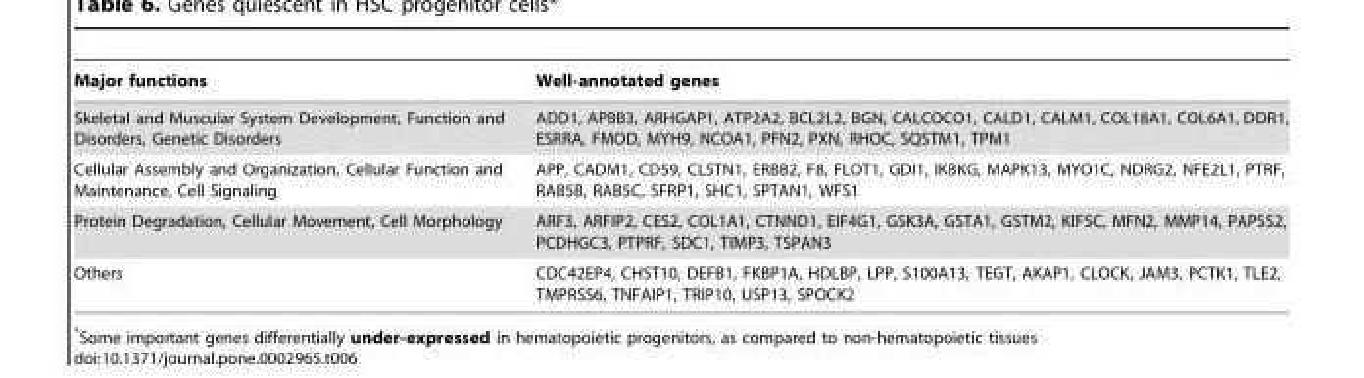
<table><thead><tr><td>Major functions</td><td>Well-annotated genes</td></tr></thead><tbody><tr><td>Skeletal and Muscular System Development, Function and Disorders, Genetic Disorders</td><td>ADD1, APBB3, ARHGAP1, ATP2A2, BCL2L2, BGN, CALCOCO1, CALD1, CALM1, COL18A1, COL6A1, DDR1, ESRRA, FMOD, MYH9, NCOA1, PFN2, PXN, RHOC, SQSTM1, TPM1</td></tr><tr><td>Cellular Assembly and Organization, Cellular Function and Maintenance, Cell Signaling</td><td>APP, CADM1, CD59, CLSTN1, ERBB2, F8, FLOT1, GDI1, IKBKG, MAPK13, MYO1C, NDRG2, NFE2L1, PTRF, RAB5B, RAB5C, SFRP1, SHC1, SPTAN1, WFS1</td></tr><tr><td>Protein Degradation, Cellular Movement, Cell Morphology</td><td>ARF3, ARFIP2, CES2, COL1A1, CTNND1, EIF4G1, GSK3A, GSTA1, GSTM2, KIF5C, MFN2, MMP14, PAPSS2, PCDHGC3, PTPRF, SDC1, TIMP3, TSPAN3</td></tr><tr><td>Others</td><td>CDC42EP4, CHST10, DEFB1, FKBP1A, HDLBP, LPP, S100A13, TEGT, AKAP1, CLOCK, JAM3, PCTK1, TLE2, TMPRSS6, TNFAIP1, TRIP10, USP13, SPOCK2</td></tr></tbody></table>